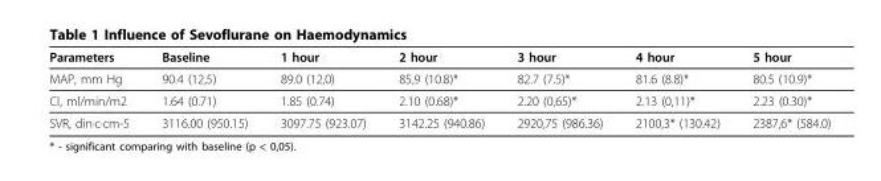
<table><thead><tr><td>Parameters</td><td>Baseline</td><td>1 hour</td><td>2 hour</td><td>3 hour</td><td>4 hour</td><td>5 hour</td></tr></thead><tbody><tr><td>MAP, mm Hg</td><td>90.4 (12,5)</td><td>89.0 (12,0)</td><td>85,9 (10.8)*</td><td>82.7 (7.5)*</td><td>81.6 (8.8)*</td><td>80.5 (10.9)*</td></tr><tr><td>CI, ml/min/m2</td><td>1.64 (0.71)</td><td>1.85 (0.74)</td><td>2.10 (0.68)*</td><td>2.20 (0,65)*</td><td>2.13 (0,11)*</td><td>2.23 (0.30)*</td></tr><tr><td>SVR, din·c·cm-5</td><td>3116.00 (950.15)</td><td>3097.75 (923.07)</td><td>3142.25 (940.86)</td><td>2920,75 (986.36)</td><td>2100,3* (130.42)</td><td>2387,6* (584.0)</td></tr></tbody></table>